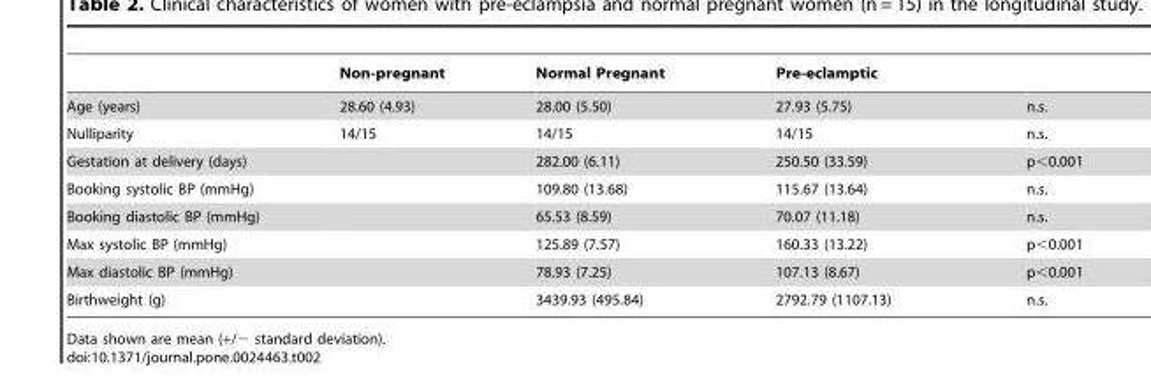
<table><thead><tr><td></td><td>Non-pregnant</td><td>Normal Pregnant</td><td>Pre-eclamptic</td><td></td></tr></thead><tbody><tr><td>Age (years)</td><td>28.60 (4.93)</td><td>28.00 (5.50)</td><td>27.93 (5.75)</td><td>n.s.</td></tr><tr><td>Nulliparity</td><td>14/15</td><td>14/15</td><td>14/15</td><td>n.s.</td></tr><tr><td>Gestation at delivery (days)</td><td></td><td>282.00 (6.11)</td><td>250.50 (33.59)</td><td>p&lt;0.001</td></tr><tr><td>Booking systolic BP (mmHg)</td><td></td><td>109.80 (13.68)</td><td>115.67 (13.64)</td><td>n.s.</td></tr><tr><td>Booking diastolic BP (mmHg)</td><td></td><td>65.53 (8.59)</td><td>70.07 (11.18)</td><td>n.s.</td></tr><tr><td>Max systolic BP (mmHg)</td><td></td><td>125.89 (7.57)</td><td>160.33 (13.22)</td><td>p&lt;0.001</td></tr><tr><td>Max diastolic BP (mmHg)</td><td></td><td>78.93 (7.25)</td><td>107.13 (8.67)</td><td>p&lt;0.001</td></tr><tr><td>Birthweight (g)</td><td></td><td>3439.93 (495.84)</td><td>2792.79 (1107.13)</td><td>n.s.</td></tr></tbody></table>